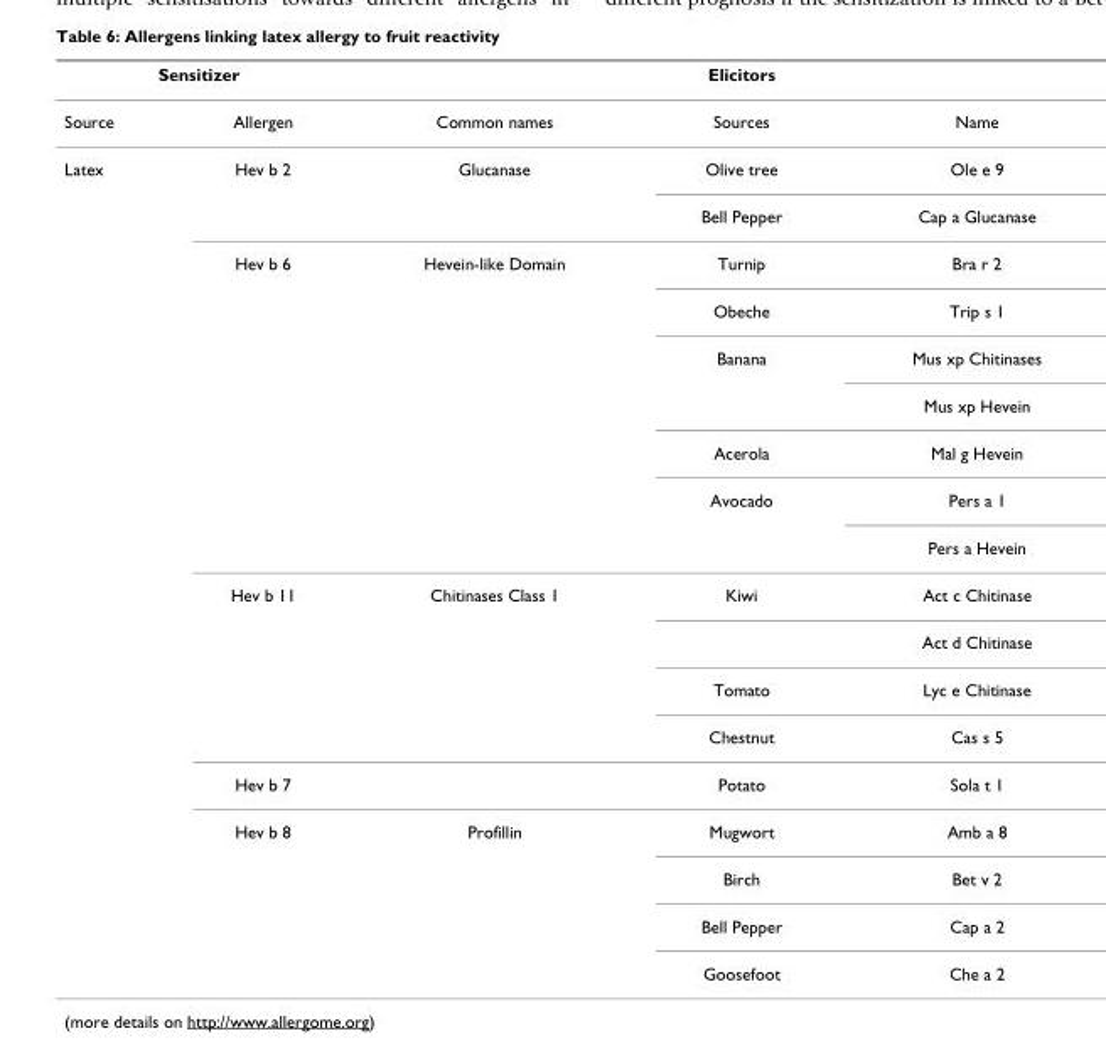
<table><thead><tr><td colspan="2">Sensitizer</td><td rowspan="2">Common names</td><td rowspan="2">Elicitors Sources</td><td rowspan="2">Name</td></tr><tr><td>Source</td><td>Allergen</td></tr></thead><tbody><tr><td rowspan="18">Latex</td><td>Hev b 2</td><td>Glucanase</td><td>Olive tree</td><td>Ole e 9</td></tr><tr><td></td><td></td><td>Bell Pepper</td><td>Cap a Glucanase</td></tr><tr><td>Hev b 6</td><td>Hevein-like Domain</td><td>Turnip</td><td>Bra r 2</td></tr><tr><td></td><td></td><td>Obeche</td><td>Trip s 1</td></tr><tr><td></td><td></td><td>Banana</td><td>Mus xp Chitinases</td></tr><tr><td></td><td></td><td></td><td>Mus xp Hevein</td></tr><tr><td></td><td></td><td>Acerola</td><td>Mal g Hevein</td></tr><tr><td></td><td></td><td>Avocado</td><td>Pers a 1</td></tr><tr><td></td><td></td><td></td><td>Pers a Hevein</td></tr><tr><td>Hev b 11</td><td>Chitinases Class 1</td><td>Kiwi</td><td>Act c Chitinase</td></tr><tr><td></td><td></td><td></td><td>Act d Chitinase</td></tr><tr><td></td><td></td><td>Tomato</td><td>Lyc e Chitinase</td></tr><tr><td></td><td></td><td>Chestnut</td><td>Cas s 5</td></tr><tr><td>Hev b 7</td><td></td><td>Potato</td><td>Sola t 1</td></tr><tr><td>Hev b 8</td><td>Profillin</td><td>Mugwort</td><td>Amb a 8</td></tr><tr><td></td><td></td><td>Birch</td><td>Bet v 2</td></tr><tr><td></td><td></td><td>Bell Pepper</td><td>Cap a 2</td></tr><tr><td></td><td></td><td>Goosefoot</td><td>Che a 2</td></tr></tbody></table>